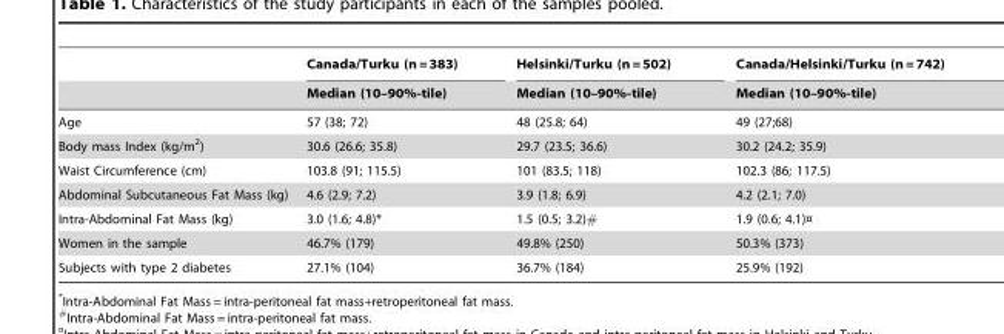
<table><thead><tr><td rowspan="2"></td><td rowspan="2">Canada/Turku (n = 383) Median (10–90%-tile)</td><td rowspan="2">Helsinki/Turku (n = 502) Median (10–90%-tile)</td><td rowspan="2">Canada/Helsinki/Turku (n = 742) Median (10–90%-tile)</td></tr><tr></tr></thead><tbody><tr><td>Age</td><td>57 (38; 72)</td><td>48 (25.8; 64)</td><td>49 (27;68)</td></tr><tr><td>Body mass Index (kg/m<sup>2</sup>)</td><td>30.6 (26.6; 35.8)</td><td>29.7 (23.5; 36.6)</td><td>30.2 (24.2; 35.9)</td></tr><tr><td>Waist Circumference (cm)</td><td>103.8 (91; 115.5)</td><td>101 (83.5; 118)</td><td>102.3 (86; 117.5)</td></tr><tr><td>Abdominal Subcutaneous Fat Mass (kg)</td><td>4.6 (2.9; 7.2)</td><td>3.9 (1.8; 6.9)</td><td>4.2 (2.1; 7.0)</td></tr><tr><td>Intra-Abdominal Fat Mass (kg)</td><td>3.0 (1.6; 4.8)*</td><td>1.5 (0.5; 3.2)#</td><td>1.9 (0.6; 4.1)¤</td></tr><tr><td>Women in the sample</td><td>46.7% (179)</td><td>49.8% (250)</td><td>50.3% (373)</td></tr><tr><td>Subjects with type 2 diabetes</td><td>27.1% (104)</td><td>36.7% (184)</td><td>25.9% (192)</td></tr></tbody></table>